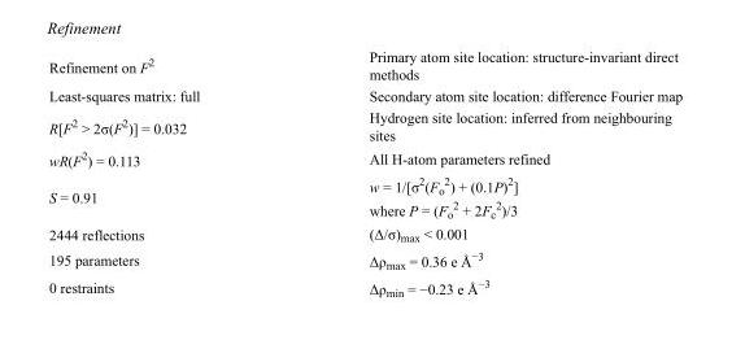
<table><tbody><tr><td>Refinement on F<sup>2</sup></td><td>Primary atom site location: structure-invariant direct methods</td></tr><tr><td>Least-squares matrix: full</td><td>Secondary atom site location: difference Fourier map</td></tr><tr><td>R[F<sup>2</sup> &gt; 2σ(F<sup>2</sup>)] = 0.032</td><td>Hydrogen site location: inferred from neighbouring sites</td></tr><tr><td>wR(F<sup>2</sup>) = 0.113</td><td>All H-atom parameters refined</td></tr><tr><td>S = 0.91</td><td>w = 1/[σ<sup>2</sup>(F<sub>o</sub> <sup>2</sup>) + (0.1P)<sup>2</sup>] where P = (F<sub>o</sub> <sup>2</sup> + 2F<sub>c</sub> <sup>2</sup>)/3</td></tr><tr><td>2444 reflections</td><td>(Δ/σ)<sub>max</sub> &lt; 0.001</td></tr><tr><td>195 parameters</td><td>Δρ<sub>max</sub> = 0.36 e Å<sup>−3</sup></td></tr><tr><td>0 restraints</td><td>Δρ<sub>min</sub> = −0.23 e Å<sup>−3</sup></td></tr></tbody></table>